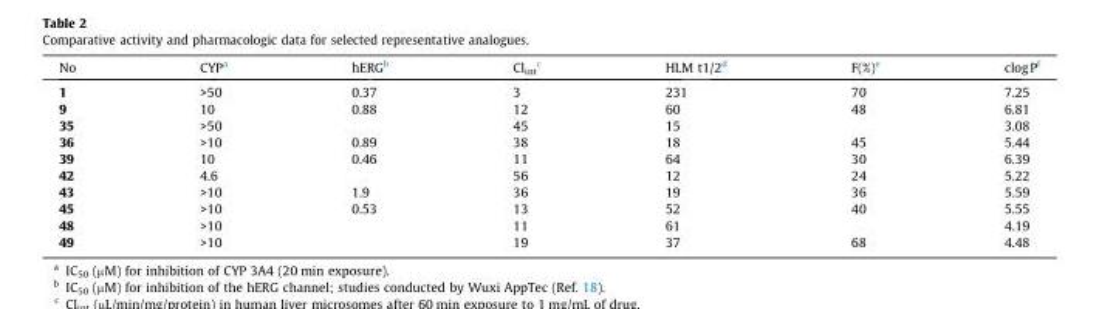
<table><thead><tr><td>No</td><td>CYP<sup>a</sup></td><td>hERG<sup>b</sup></td><td>Cl<sub>int</sub> <sup>c</sup></td><td>HLM t1/2<sup>d</sup></td><td>F(%)<sup>e</sup></td><td>clogP<sup>f</sup></td></tr></thead><tbody><tr><td>1</td><td>&gt;50</td><td>0.37</td><td>3</td><td>231</td><td>70</td><td>7.25</td></tr><tr><td>9</td><td>10</td><td>0.88</td><td>12</td><td>60</td><td>48</td><td>6.81</td></tr><tr><td>35</td><td>&gt;50</td><td></td><td>45</td><td>15</td><td></td><td>3.08</td></tr><tr><td>36</td><td>&gt;10</td><td>0.89</td><td>38</td><td>18</td><td>45</td><td>5.44</td></tr><tr><td>39</td><td>10</td><td>0.46</td><td>11</td><td>64</td><td>30</td><td>6.39</td></tr><tr><td>42</td><td>4.6</td><td></td><td>56</td><td>12</td><td>24</td><td>5.22</td></tr><tr><td>43</td><td>&gt;10</td><td>1.9</td><td>36</td><td>19</td><td>36</td><td>5.59</td></tr><tr><td>45</td><td>&gt;10</td><td>0.53</td><td>13</td><td>52</td><td>40</td><td>5.55</td></tr><tr><td>48</td><td>&gt;10</td><td></td><td>11</td><td>61</td><td></td><td>4.19</td></tr><tr><td>49</td><td>&gt;10</td><td></td><td>19</td><td>37</td><td>68</td><td>4.48</td></tr></tbody></table>